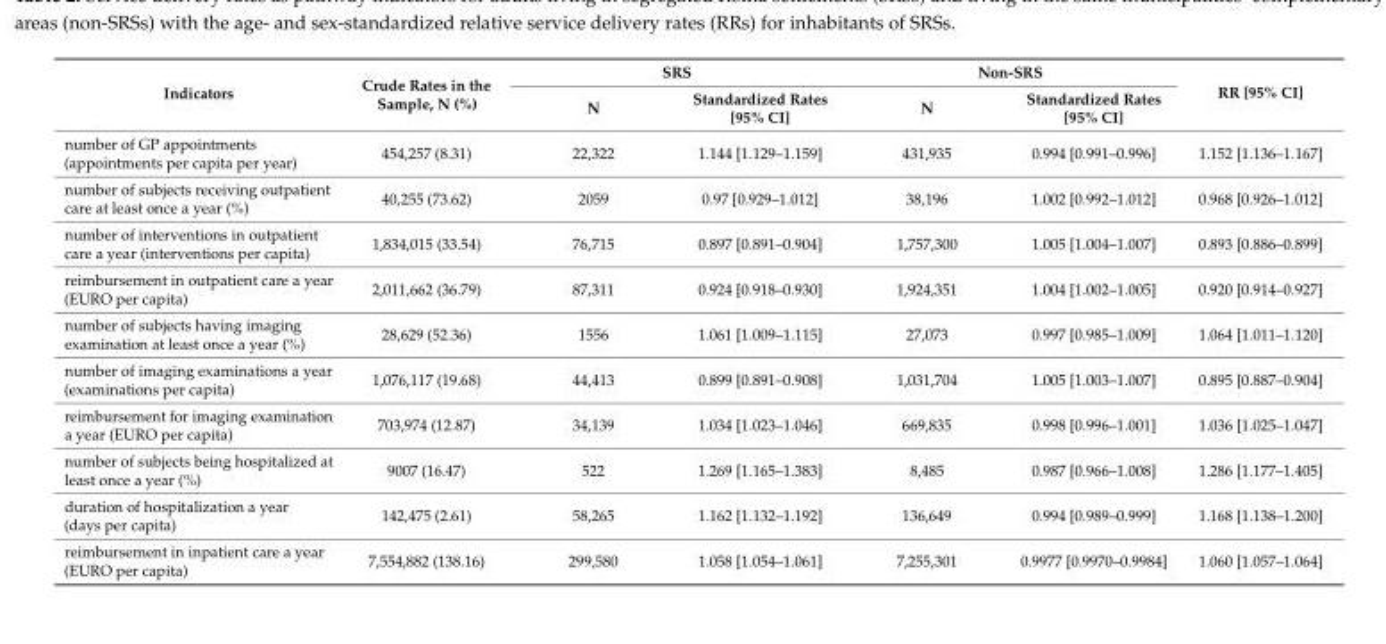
<table><thead><tr><td rowspan="2">Indicators</td><td rowspan="2">Crude Rates in the Sample, N (%)</td><td colspan="2">SRS</td><td colspan="2">Non-SRS</td><td rowspan="2">RR [95% CI]</td></tr><tr><td>N</td><td>Standardized Rates [95% CI]</td><td>N</td><td>Standardized Rates [95% CI]</td></tr></thead><tbody><tr><td>number of GP appointments (appointments per capita per year)</td><td>454,257 (8.31)</td><td>22,322</td><td>1.144 [1.129–1.159]</td><td>431,935</td><td>0.994 [0.991–0.996]</td><td>1.152 [1.136–1.167]</td></tr><tr><td>number of subjects receiving outpatient care at least once a year (%)</td><td>40,255 (73.62)</td><td>2059</td><td>0.97 [0.929–1.012]</td><td>38,196</td><td>1.002 [0.992–1.012]</td><td>0.968 [0.926–1.012]</td></tr><tr><td>number of interventions in outpatient care a year (interventions per capita)</td><td>1,834,015 (33.54)</td><td>76,715</td><td>0.897 [0.891–0.904]</td><td>1,757,300</td><td>1.005 [1.004–1.007]</td><td>0.893 [0.886–0.899]</td></tr><tr><td>reimbursement in outpatient care a year (EURO per capita)</td><td>2,011,662 (36.79)</td><td>87,311</td><td>0.924 [0.918–0.930]</td><td>1,924,351</td><td>1.004 [1.002–1.005]</td><td>0.920 [0.914–0.927]</td></tr><tr><td>number of subjects having imaging examination at least once a year (%)</td><td>28,629 (52.36)</td><td>1556</td><td>1.061 [1.009–1.115]</td><td>27,073</td><td>0.997 [0.985–1.009]</td><td>1.064 [1.011–1.120]</td></tr><tr><td>number of imaging examinations a year (examinations per capita)</td><td>1,076,117 (19.68)</td><td>44,413</td><td>0.899 [0.891–0.908]</td><td>1,031,704</td><td>1.005 [1.003–1.007]</td><td>0.895 [0.887–0.904]</td></tr><tr><td>reimbursement for imaging examination a year (EURO per capita)</td><td>703,974 (12.87)</td><td>34,139</td><td>1.034 [1.023–1.046]</td><td>669,835</td><td>0.998 [0.996–1.001]</td><td>1.036 [1.025–1.047]</td></tr><tr><td>number of subjects being hospitalized at least once a year (%)</td><td>9007 (16.47)</td><td>522</td><td>1.269 [1.165–1.383]</td><td>8,485</td><td>0.987 [0.966–1.008]</td><td>1.286 [1.177–1.405]</td></tr><tr><td>duration of hospitalization a year (days per capita)</td><td>142,475 (2.61)</td><td>58,265</td><td>1.162 [1.132–1.192]</td><td>136,649</td><td>0.994 [0.989–0.999]</td><td>1.168 [1.138–1.200]</td></tr><tr><td>reimbursement in inpatient care a year (EURO per capita)</td><td>7,554,882 (138.16)</td><td>299,580</td><td>1.058 [1.054–1.061]</td><td>7,255,301</td><td>0.9977 [0.9970–0.9984]</td><td>1.060 [1.057–1.064]</td></tr></tbody></table>